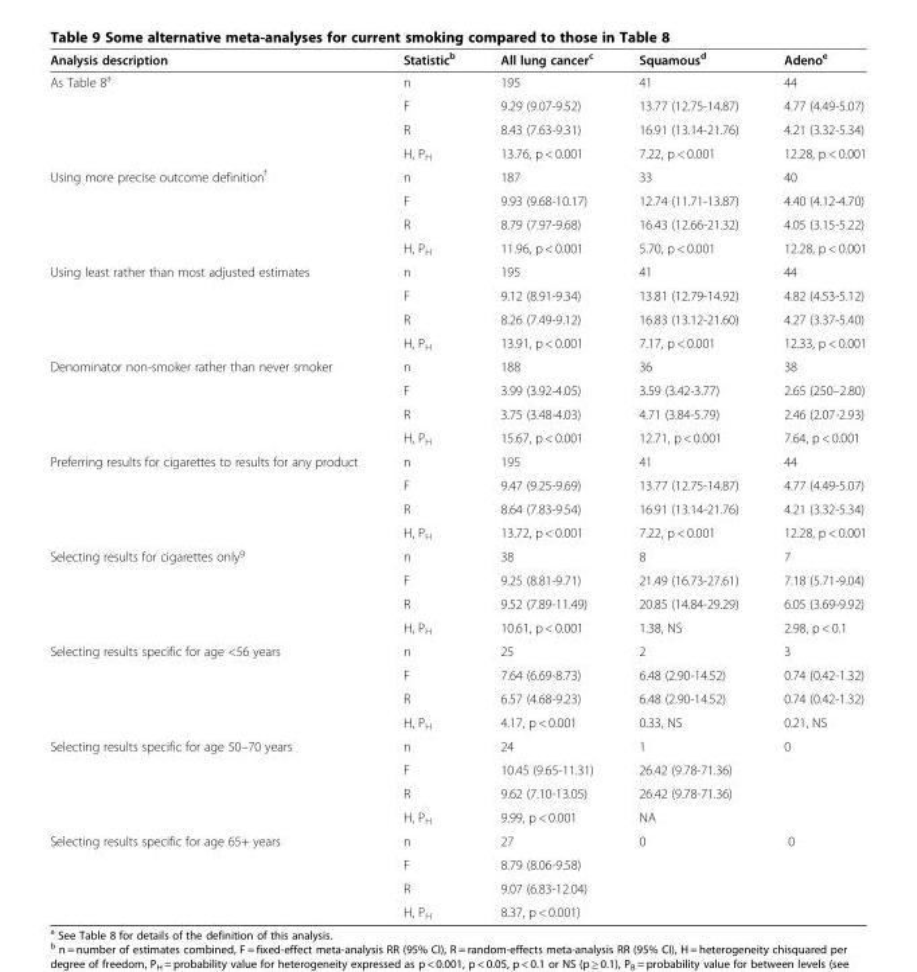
<table><thead><tr><td>Analysis description</td><td>Statistic<sup>b</sup></td><td>All lung cancer<sup>c</sup></td><td>Squamous<sup>d</sup></td><td>Adeno<sup>e</sup></td></tr></thead><tbody><tr><td rowspan="4">As Table 8<sup>a</sup></td><td>n</td><td>195</td><td>41</td><td>44</td></tr><tr><td>F</td><td>9.29 (9.07-9.52)</td><td>13.77 (12.75-14.87)</td><td>4.77 (4.49-5.07)</td></tr><tr><td>R</td><td>8.43 (7.63-9.31)</td><td>16.91 (13.14-21.76)</td><td>4.21 (3.32-5.34)</td></tr><tr><td>H, P<sub>H</sub></td><td>13.76, p &lt; 0.001</td><td>7.22, p &lt; 0.001</td><td>12.28, p &lt; 0.001</td></tr><tr><td rowspan="4">Using more precise outcome definition<sup>f</sup></td><td>n</td><td>187</td><td>33</td><td>40</td></tr><tr><td>F</td><td>9.93 (9.68-10.17)</td><td>12.74 (11.71-13.87)</td><td>4.40 (4.12-4.70)</td></tr><tr><td>R</td><td>8.79 (7.97-9.68)</td><td>16.43 (12.66-21.32)</td><td>4.05 (3.15-5.22)</td></tr><tr><td>H, P<sub>H</sub></td><td>11.96, p &lt; 0.001</td><td>5.70, p &lt; 0.001</td><td>12.28, p &lt; 0.001</td></tr><tr><td rowspan="4">Using least rather than most adjusted estimates</td><td>n</td><td>195</td><td>41</td><td>44</td></tr><tr><td>F</td><td>9.12 (8.91-9.34)</td><td>13.81 (12.79-14.92)</td><td>4.82 (4.53-5.12)</td></tr><tr><td>R</td><td>8.26 (7.49-9.12)</td><td>16.83 (13.12-21.60)</td><td>4.27 (3.37-5.40)</td></tr><tr><td>H, P<sub>H</sub></td><td>13.91, p &lt; 0.001</td><td>7.17, p &lt; 0.001</td><td>12.33, p &lt; 0.001</td></tr><tr><td rowspan="4">Denominator non-smoker rather than never smoker</td><td>n</td><td>188</td><td>36</td><td>38</td></tr><tr><td>F</td><td>3.99 (3.92-4.05)</td><td>3.59 (3.42-3.77)</td><td>2.65 (250–2.80)</td></tr><tr><td>R</td><td>3.75 (3.48-4.03)</td><td>4.71 (3.84-5.79)</td><td>2.46 (2.07-2.93)</td></tr><tr><td>H, P<sub>H</sub></td><td>15.67, p &lt; 0.001</td><td>12.71, p &lt; 0.001</td><td>7.64, p &lt; 0.001</td></tr><tr><td rowspan="4">Preferring results for cigarettes to results for any product</td><td>n</td><td>195</td><td>41</td><td>44</td></tr><tr><td>F</td><td>9.47 (9.25-9.69)</td><td>13.77 (12.75-14.87)</td><td>4.77 (4.49-5.07)</td></tr><tr><td>R</td><td>8.64 (7.83-9.54)</td><td>16.91 (13.14-21.76)</td><td>4.21 (3.32-5.34)</td></tr><tr><td>H, P<sub>H</sub></td><td>13.72, p &lt; 0.001</td><td>7.22, p &lt; 0.001</td><td>12.28, p &lt; 0.001</td></tr><tr><td rowspan="4">Selecting results for cigarettes only<sup>g</sup></td><td>n</td><td>38</td><td>8</td><td>7</td></tr><tr><td>F</td><td>9.25 (8.81-9.71)</td><td>21.49 (16.73-27.61)</td><td>7.18 (5.71-9.04)</td></tr><tr><td>R</td><td>9.52 (7.89-11.49)</td><td>20.85 (14.84-29.29)</td><td>6.05 (3.69-9.92)</td></tr><tr><td>H, P<sub>H</sub></td><td>10.61, p &lt; 0.001</td><td>1.38, NS</td><td>2.98, p &lt; 0.1</td></tr><tr><td rowspan="4">Selecting results specific for age &lt;56 years</td><td>n</td><td>25</td><td>2</td><td>3</td></tr><tr><td>F</td><td>7.64 (6.69-8.73)</td><td>6.48 (2.90-14.52)</td><td>0.74 (0.42-1.32)</td></tr><tr><td>R</td><td>6.57 (4.68-9.23)</td><td>6.48 (2.90-14.52)</td><td>0.74 (0.42-1.32)</td></tr><tr><td>H, P<sub>H</sub></td><td>4.17, p &lt; 0.001</td><td>0.33, NS</td><td>0.21, NS</td></tr><tr><td rowspan="4">Selecting results specific for age 50–70 years</td><td>n</td><td>24</td><td>1</td><td>0</td></tr><tr><td>F</td><td>10.45 (9.65-11.31)</td><td>26.42 (9.78-71.36)</td><td></td></tr><tr><td>R</td><td>9.62 (7.10-13.05)</td><td>26.42 (9.78-71.36)</td><td></td></tr><tr><td>H, P<sub>H</sub></td><td>9.99, p &lt; 0.001</td><td>NA</td><td></td></tr><tr><td rowspan="4">Selecting results specific for age 65+ years</td><td>n</td><td>27</td><td>0</td><td>0</td></tr><tr><td>F</td><td>8.79 (8.06-9.58)</td><td></td><td></td></tr><tr><td>R</td><td>9.07 (6.83-12.04)</td><td></td><td></td></tr><tr><td>H, P<sub>H</sub></td><td>8.37, p &lt; 0.001)</td><td></td><td></td></tr></tbody></table>